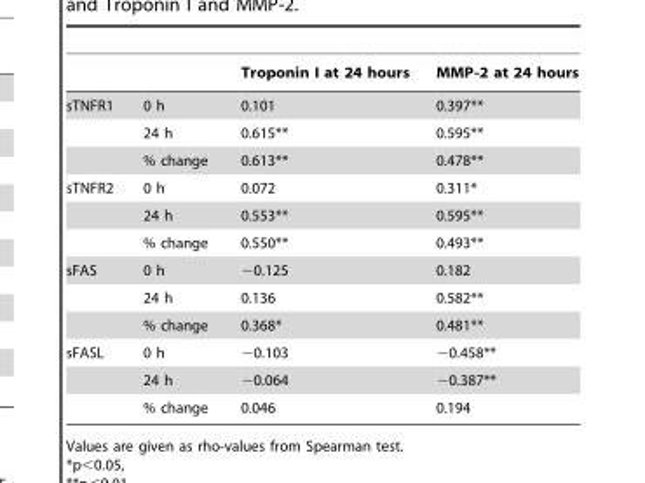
<table><thead><tr><td></td><td></td><td>Troponin I at 24 hours</td><td>MMP-2 at 24 hours</td></tr></thead><tbody><tr><td rowspan="3">sTNFR1</td><td>0 h</td><td>0.101</td><td>0.397**</td></tr><tr><td>24 h</td><td>0.615**</td><td>0.595**</td></tr><tr><td>% change</td><td>0.613**</td><td>0.478**</td></tr><tr><td rowspan="3">sTNFR2</td><td>0 h</td><td>0.072</td><td>0.311*</td></tr><tr><td>24 h</td><td>0.553**</td><td>0.595**</td></tr><tr><td>% change</td><td>0.550**</td><td>0.493**</td></tr><tr><td rowspan="3">sFAS</td><td>0 h</td><td>−0.125</td><td>0.182</td></tr><tr><td>24 h</td><td>0.136</td><td>0.582**</td></tr><tr><td>% change</td><td>0.368*</td><td>0.481**</td></tr><tr><td rowspan="3">sFASL</td><td>0 h</td><td>−0.103</td><td>−0.458**</td></tr><tr><td>24 h</td><td>−0.064</td><td>−0.387**</td></tr><tr><td>% change</td><td>0.046</td><td>0.194</td></tr></tbody></table>